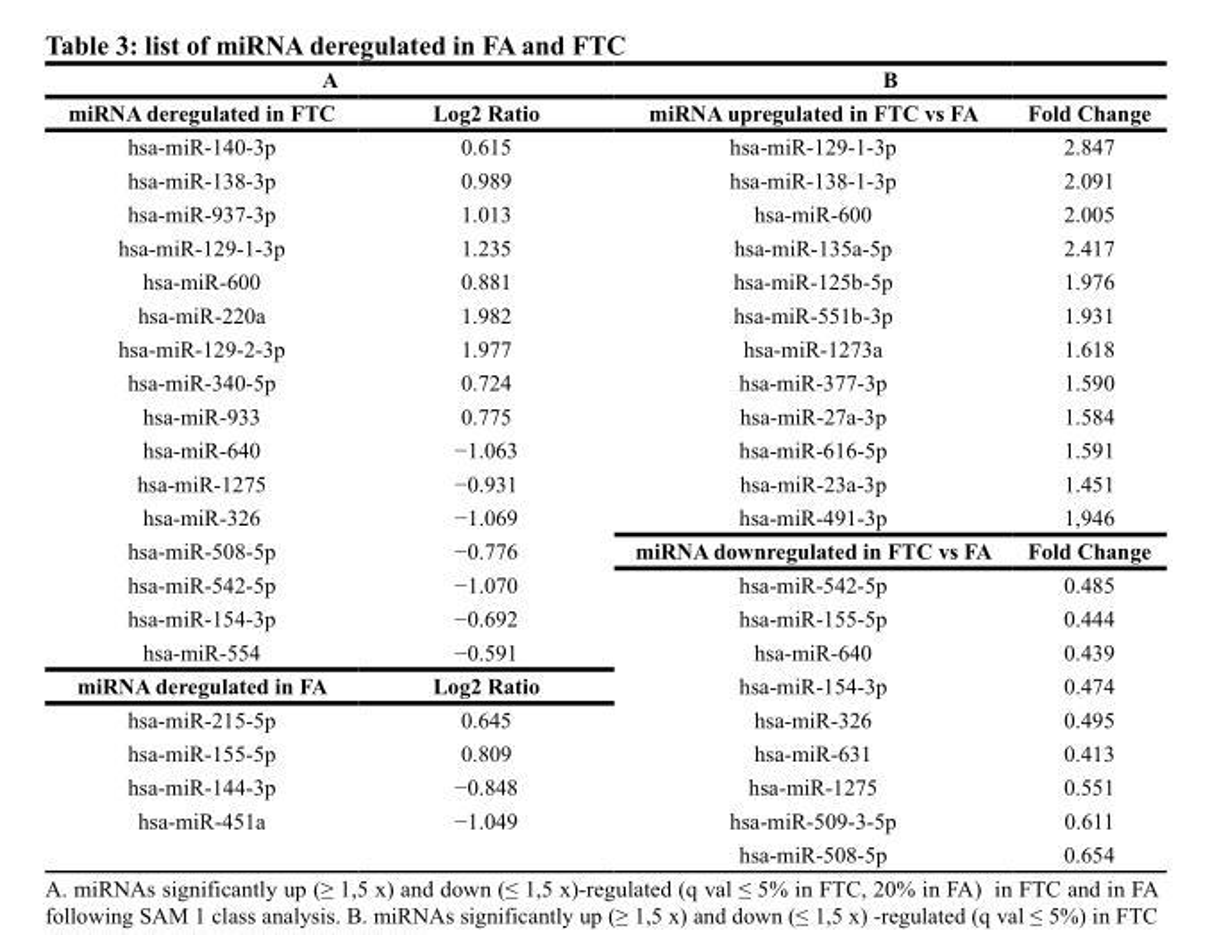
<table><thead><tr><td colspan="2">A</td><td colspan="2">B</td></tr><tr><td>miRNA deregulated in FTC</td><td>Log2 Ratio</td><td>miRNA upregulated in FTC vs FA</td><td>Fold Change</td></tr></thead><tbody><tr><td>hsa-miR-140-3p</td><td>0.615</td><td>hsa-miR-129-1-3p</td><td>2.847</td></tr><tr><td>hsa-miR-138-3p</td><td>0.989</td><td>hsa-miR-138-1-3p</td><td>2.091</td></tr><tr><td>hsa-miR-937-3p</td><td>1.013</td><td>hsa-miR-600</td><td>2.005</td></tr><tr><td>hsa-miR-129-1-3p</td><td>1.235</td><td>hsa-miR-135a-5p</td><td>2.417</td></tr><tr><td>hsa-miR-600</td><td>0.881</td><td>hsa-miR-125b-5p</td><td>1.976</td></tr><tr><td>hsa-miR-220a</td><td>1.982</td><td>hsa-miR-551b-3p</td><td>1.931</td></tr><tr><td>hsa-miR-129-2-3p</td><td>1.977</td><td>hsa-miR-1273a</td><td>1.618</td></tr><tr><td>hsa-miR-340-5p</td><td>0.724</td><td>hsa-miR-377-3p</td><td>1.590</td></tr><tr><td>hsa-miR-933</td><td>0.775</td><td>hsa-miR-27a-3p</td><td>1.584</td></tr><tr><td>hsa-miR-640</td><td>−1.063</td><td>hsa-miR-616-5p</td><td>1.591</td></tr><tr><td>hsa-miR-1275</td><td>−0.931</td><td>hsa-miR-23a-3p</td><td>1.451</td></tr><tr><td>hsa-miR-326</td><td>−1.069</td><td>hsa-miR-491-3p</td><td>1,946</td></tr><tr><td>hsa-miR-508-5p</td><td>−0.776</td><td>miRNA downregulated in FTC vs FA</td><td>Fold Change</td></tr><tr><td>hsa-miR-542-5p</td><td>−1.070</td><td>hsa-miR-542-5p</td><td>0.485</td></tr><tr><td>hsa-miR-154-3p</td><td>−0.692</td><td>hsa-miR-155-5p</td><td>0.444</td></tr><tr><td>hsa-miR-554</td><td>−0.591</td><td>hsa-miR-640</td><td>0.439</td></tr><tr><td>miRNA deregulated in FA</td><td>Log2 Ratio</td><td>hsa-miR-154-3p</td><td>0.474</td></tr><tr><td>hsa-miR-215-5p</td><td>0.645</td><td>hsa-miR-326</td><td>0.495</td></tr><tr><td>hsa-miR-155-5p</td><td>0.809</td><td>hsa-miR-631</td><td>0.413</td></tr><tr><td>hsa-miR-144-3p</td><td>−0.848</td><td>hsa-miR-1275</td><td>0.551</td></tr><tr><td rowspan="2">hsa-miR-451a</td><td>−1.049</td><td>hsa-miR-509-3-5p</td><td>0.611</td></tr><tr><td></td><td>hsa-miR-508-5p</td><td>0.654</td></tr></tbody></table>